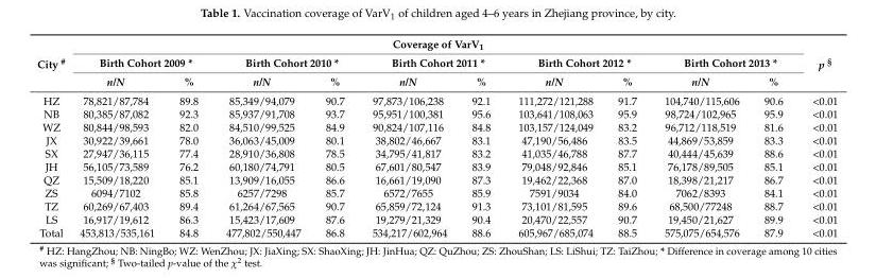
<table><thead><tr><td rowspan="3">City <sup>#</sup></td><td colspan="10">Coverage of VarV<sub>1</sub></td><td rowspan="3">p <sup>§</sup></td></tr><tr><td colspan="2">Birth Cohort 2009 *</td><td colspan="2">Birth Cohort 2010 *</td><td colspan="2">Birth Cohort 2011 *</td><td colspan="2">Birth Cohort 2012 *</td><td colspan="2">Birth Cohort 2013 *</td></tr><tr><td>n/N</td><td>%</td><td>n/N</td><td>%</td><td>n/N</td><td>%</td><td>n/N</td><td>%</td><td>n/N</td><td>%</td></tr></thead><tbody><tr><td>HZ</td><td>78,821/87,784</td><td>89.8</td><td>85,349/94,079</td><td>90.7</td><td>97,873/106,238</td><td>92.1</td><td>111,272/121,288</td><td>91.7</td><td>104,740/115,606</td><td>90.6</td><td>&lt;0.01</td></tr><tr><td>NB</td><td>80,385/87,082</td><td>92.3</td><td>85,937/91,708</td><td>93.7</td><td>95,951/100,381</td><td>95.6</td><td>103,641/108,063</td><td>95.9</td><td>98,724/102,965</td><td>95.9</td><td>&lt;0.01</td></tr><tr><td>WZ</td><td>80,844/98,593</td><td>82.0</td><td>84,510/99,525</td><td>84.9</td><td>90,824/107,116</td><td>84.8</td><td>103,157/124,049</td><td>83.2</td><td>96,712/118,519</td><td>81.6</td><td>&lt;0.01</td></tr><tr><td>JX</td><td>30,922/39,661</td><td>78.0</td><td>36,063/45,009</td><td>80.1</td><td>38,802/46,667</td><td>83.1</td><td>47,190/56,486</td><td>83.5</td><td>44,869/53,859</td><td>83.3</td><td>&lt;0.01</td></tr><tr><td>SX</td><td>27,947/36,115</td><td>77.4</td><td>28,910/36,808</td><td>78.5</td><td>34,795/41,817</td><td>83.2</td><td>41,035/46,788</td><td>87.7</td><td>40,444/45,639</td><td>88.6</td><td>&lt;0.01</td></tr><tr><td>JH</td><td>56,105/73,589</td><td>76.2</td><td>60,180/74,791</td><td>80.5</td><td>67,601/80,547</td><td>83.9</td><td>79,048/92,846</td><td>85.1</td><td>76,178/89,505</td><td>85.1</td><td>&lt;0.01</td></tr><tr><td>QZ</td><td>15,509/18,220</td><td>85.1</td><td>13,909/16,055</td><td>86.6</td><td>16,661/19,090</td><td>87.3</td><td>19,462/22,368</td><td>87.0</td><td>18,398/21,217</td><td>86.7</td><td>&lt;0.01</td></tr><tr><td>ZS</td><td>6094/7102</td><td>85.8</td><td>6257/7298</td><td>85.7</td><td>6572/7655</td><td>85.9</td><td>7591/9034</td><td>84.0</td><td>7062/8393</td><td>84.1</td><td>&lt;0.01</td></tr><tr><td>TZ</td><td>60,269/67,403</td><td>89.4</td><td>61,264/67,565</td><td>90.7</td><td>65,859/72,124</td><td>91.3</td><td>73,101/81,595</td><td>89.6</td><td>68,500/77248</td><td>88.7</td><td>&lt;0.01</td></tr><tr><td>LS</td><td>16,917/19,612</td><td>86.3</td><td>15,423/17,609</td><td>87.6</td><td>19,279/21,329</td><td>90.4</td><td>20,470/22,557</td><td>90.7</td><td>19,450/21,627</td><td>89.9</td><td>&lt;0.01</td></tr><tr><td>Total</td><td>453,813/535,161</td><td>84.8</td><td>477,802/550,447</td><td>86.8</td><td>534,217/602,964</td><td>88.6</td><td>605,967/685,074</td><td>88.5</td><td>575,075/654,576</td><td>87.9</td><td>&lt;0.01</td></tr></tbody></table>